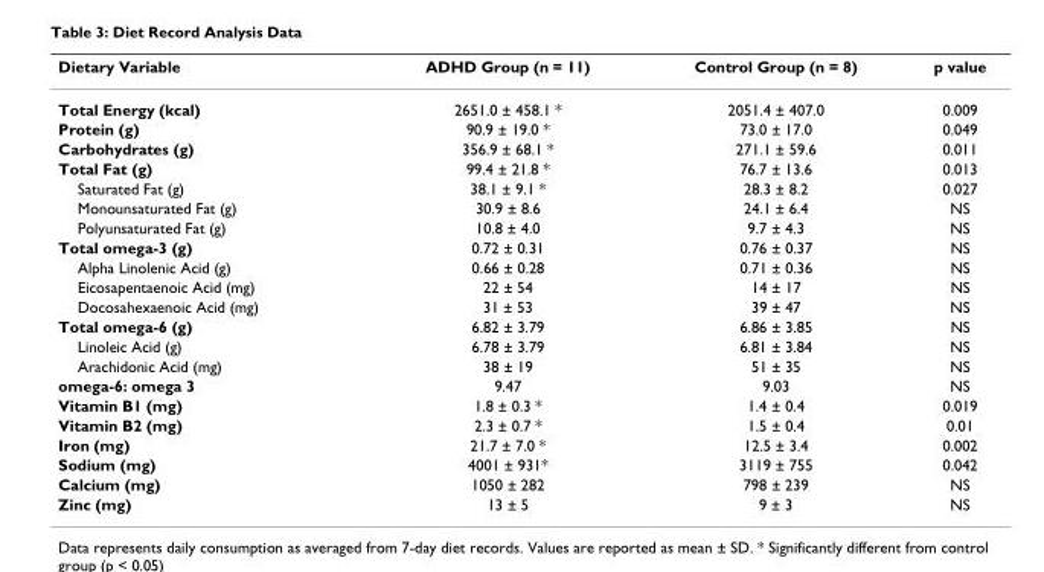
<table><thead><tr><td>Dietary Variable</td><td>ADHD Group (n = 11)</td><td>Control Group (n = 8)</td><td>p value</td></tr></thead><tbody><tr><td>Total Energy (kcal)</td><td>2651.0 ± 458.1 *</td><td>2051.4 ± 407.0</td><td>0.009</td></tr><tr><td>Protein (g)</td><td>90.9 ± 19.0 *</td><td>73.0 ± 17.0</td><td>0.049</td></tr><tr><td>Carbohydrates (g)</td><td>356.9 ± 68.1 *</td><td>271.1 ± 59.6</td><td>0.011</td></tr><tr><td>Total Fat (g)</td><td>99.4 ± 21.8 *</td><td>76.7 ± 13.6</td><td>0.013</td></tr><tr><td>Saturated Fat (g)</td><td>38.1 ± 9.1 *</td><td>28.3 ± 8.2</td><td>0.027</td></tr><tr><td>Monounsaturated Fat (g)</td><td>30.9 ± 8.6</td><td>24.1 ± 6.4</td><td>NS</td></tr><tr><td>Polyunsaturated Fat (g)</td><td>10.8 ± 4.0</td><td>9.7 ± 4.3</td><td>NS</td></tr><tr><td>Total omega-3 (g)</td><td>0.72 ± 0.31</td><td>0.76 ± 0.37</td><td>NS</td></tr><tr><td>Alpha Linolenic Acid (g)</td><td>0.66 ± 0.28</td><td>0.71 ± 0.36</td><td>NS</td></tr><tr><td>Eicosapentaenoic Acid (mg)</td><td>22 ± 54</td><td>14 ± 17</td><td>NS</td></tr><tr><td>Docosahexaenoic Acid (mg)</td><td>31 ± 53</td><td>39 ± 47</td><td>NS</td></tr><tr><td>Total omega-6 (g)</td><td>6.82 ± 3.79</td><td>6.86 ± 3.85</td><td>NS</td></tr><tr><td>Linoleic Acid (g)</td><td>6.78 ± 3.79</td><td>6.81 ± 3.84</td><td>NS</td></tr><tr><td>Arachidonic Acid (mg)</td><td>38 ± 19</td><td>51 ± 35</td><td>NS</td></tr><tr><td>omega-6: omega 3</td><td>9.47</td><td>9.03</td><td>NS</td></tr><tr><td>Vitamin B1 (mg)</td><td>1.8 ± 0.3 *</td><td>1.4 ± 0.4</td><td>0.019</td></tr><tr><td>Vitamin B2 (mg)</td><td>2.3 ± 0.7 *</td><td>1.5 ± 0.4</td><td>0.01</td></tr><tr><td>Iron (mg)</td><td>21.7 ± 7.0 *</td><td>12.5 ± 3.4</td><td>0.002</td></tr><tr><td>Sodium (mg)</td><td>4001 ± 931*</td><td>3119 ± 755</td><td>0.042</td></tr><tr><td>Calcium (mg)</td><td>1050 ± 282</td><td>798 ± 239</td><td>NS</td></tr><tr><td>Zinc (mg)</td><td>13 ± 5</td><td>9 ± 3</td><td>NS</td></tr></tbody></table>